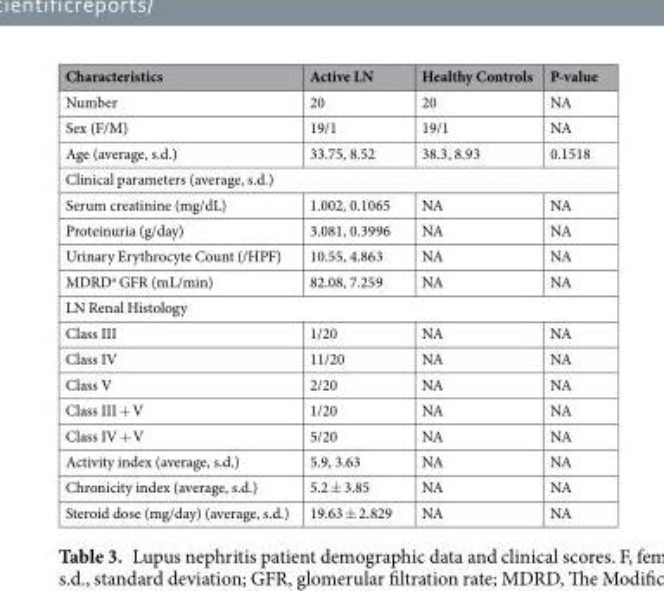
<table><thead><tr><td>Characteristics</td><td>Active LN</td><td>Healthy Controls</td><td>P-value</td></tr></thead><tbody><tr><td>Number</td><td>20</td><td>20</td><td>NA</td></tr><tr><td>Sex (F/M)</td><td>19/1</td><td>19/1</td><td>NA</td></tr><tr><td>Age (average, s.d.)</td><td>33.75, 8.52</td><td>38.3, 8.93</td><td>0.1518</td></tr><tr><td colspan="4">Clinical parameters (average, s.d.)</td></tr><tr><td>Serum creatinine (mg/dL)</td><td>1.002, 0.1065</td><td>NA</td><td>NA</td></tr><tr><td>Proteinuria (g/day)</td><td>3.081, 0.3996</td><td>NA</td><td>NA</td></tr><tr><td>Urinary Erythrocyte Count (/HPF)</td><td>10.55, 4.863</td><td>NA</td><td>NA</td></tr><tr><td>MDRD<sup>a</sup> GFR (mL/min)</td><td>82.08, 7.259</td><td>NA</td><td>NA</td></tr><tr><td colspan="4">LN Renal Histology</td></tr><tr><td>Class III</td><td>1/20</td><td>NA</td><td>NA</td></tr><tr><td>Class IV</td><td>11/20</td><td>NA</td><td>NA</td></tr><tr><td>Class V</td><td>2/20</td><td>NA</td><td>NA</td></tr><tr><td>Class III + V</td><td>1/20</td><td>NA</td><td>NA</td></tr><tr><td>Class IV + V</td><td>5/20</td><td>NA</td><td>NA</td></tr><tr><td>Activity index (average, s.d.)</td><td>5.9, 3.63</td><td>NA</td><td>NA</td></tr><tr><td>Chronicity index (average, s.d.)</td><td>5.2 ± 3.85</td><td>NA</td><td>NA</td></tr><tr><td>Steroid dose (mg/day) (average, s.d.)</td><td>19.63 ± 2.829</td><td>NA</td><td>NA</td></tr></tbody></table>